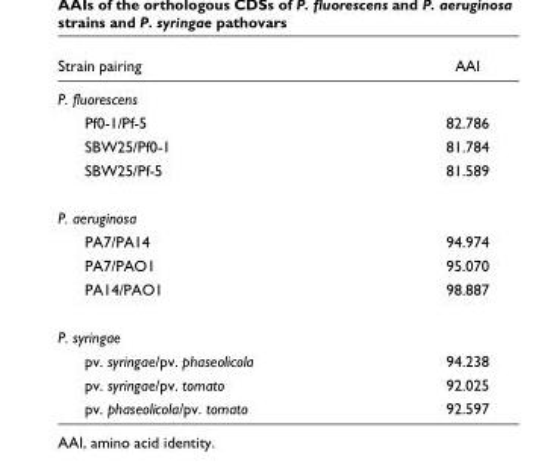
<table><thead><tr><td>Strain pairing</td><td>AAI</td></tr></thead><tbody><tr><td colspan="2">P. fluorescens</td></tr><tr><td>Pf0-1/Pf-5</td><td>82.786</td></tr><tr><td>SBW25/Pf0-1</td><td>81.784</td></tr><tr><td>SBW25/Pf-5</td><td>81.589</td></tr><tr><td colspan="2">P. aeruginosa</td></tr><tr><td>PA7/PA14</td><td>94.974</td></tr><tr><td>PA7/PAO1</td><td>95.070</td></tr><tr><td>PA14/PAO1</td><td>98.887</td></tr><tr><td colspan="2">P. syringae</td></tr><tr><td>pv. syringae/pv. phaseolicola</td><td>94.238</td></tr><tr><td>pv. syringae/pv. tomato</td><td>92.025</td></tr><tr><td>pv. phaseolicola/pv. tomato</td><td>92.597</td></tr></tbody></table>